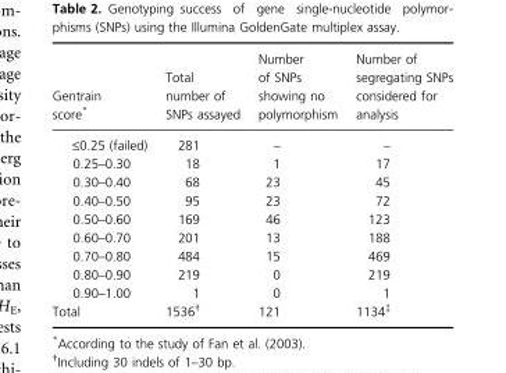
<table><thead><tr><td>Gentrain score*</td><td>Total number of SNPs assayed</td><td>Number of SNPs showing no polymorphism</td><td>Number of segregating SNPs considered for analysis</td></tr></thead><tbody><tr><td>≤0.25 (failed)</td><td>281</td><td>–</td><td>–</td></tr><tr><td>0.25–0.30</td><td>18</td><td>1</td><td>17</td></tr><tr><td>0.30–0.40</td><td>68</td><td>23</td><td>45</td></tr><tr><td>0.40–0.50</td><td>95</td><td>23</td><td>72</td></tr><tr><td>0.50–0.60</td><td>169</td><td>46</td><td>123</td></tr><tr><td>0.60–0.70</td><td>201</td><td>13</td><td>188</td></tr><tr><td>0.70–0.80</td><td>484</td><td>15</td><td>469</td></tr><tr><td>0.80–0.90</td><td>219</td><td>0</td><td>219</td></tr><tr><td>0.90–1.00</td><td>1</td><td>0</td><td>1</td></tr><tr><td>Total</td><td>1536†</td><td>121</td><td>1134‡</td></tr></tbody></table>